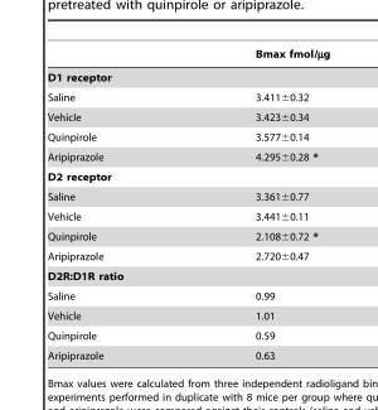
<table><thead><tr><td></td><td>Bmax fmol/µg</td></tr></thead><tbody><tr><td colspan="2">D1 receptor</td></tr><tr><td>Saline</td><td>3.411±0.32</td></tr><tr><td>Vehicle</td><td>3.423±0.34</td></tr><tr><td>Quinpirole</td><td>3.577±0.14</td></tr><tr><td>Aripiprazole</td><td>4.295±0.28 *</td></tr><tr><td colspan="2">D2 receptor</td></tr><tr><td>Saline</td><td>3.361±0.77</td></tr><tr><td>Vehicle</td><td>3.441±0.11</td></tr><tr><td>Quinpirole</td><td>2.108±0.72 *</td></tr><tr><td>Aripiprazole</td><td>2.720±0.47</td></tr><tr><td colspan="2">D2R:D1R ratio</td></tr><tr><td>Saline</td><td>0.99</td></tr><tr><td>Vehicle</td><td>1.01</td></tr><tr><td>Quinpirole</td><td>0.59</td></tr><tr><td>Aripiprazole</td><td>0.63</td></tr></tbody></table>